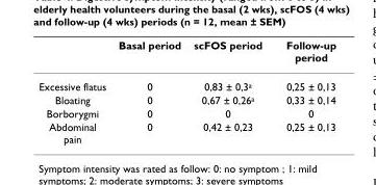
<table><thead><tr><td></td><td>Basal period</td><td>scFOS period</td><td>Follow-up period</td></tr></thead><tbody><tr><td>Excessive flatus</td><td>0</td><td>0,83 ± 0,3<sup>a</sup></td><td>0,25 ± 0,13</td></tr><tr><td>Bloating</td><td>0</td><td>0,67 ± 0,26<sup>a</sup></td><td>0,33 ± 0,14</td></tr><tr><td>Borborygmi</td><td>0</td><td>0</td><td>0</td></tr><tr><td>Abdominal pain</td><td>0</td><td>0,42 ± 0,23</td><td>0,25 ± 0,13</td></tr></tbody></table>